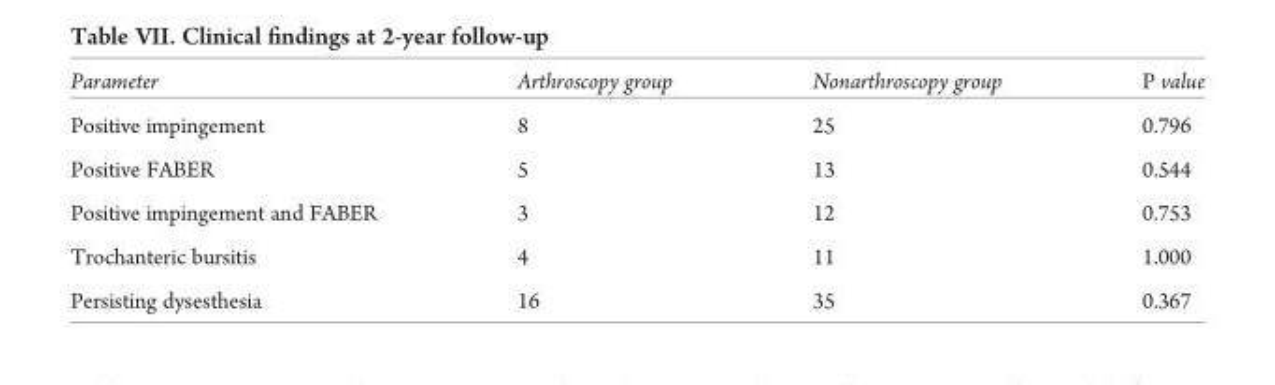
<table><thead><tr><td>Parameter</td><td>Arthroscopy group</td><td>Nonarthroscopy group</td><td>P value</td></tr></thead><tbody><tr><td>Positive impingement</td><td>8</td><td>25</td><td>0.796</td></tr><tr><td>Positive FABER</td><td>5</td><td>13</td><td>0.544</td></tr><tr><td>Positive impingement and FABER</td><td>3</td><td>12</td><td>0.753</td></tr><tr><td>Trochanteric bursitis</td><td>4</td><td>11</td><td>1.000</td></tr><tr><td>Persisting dysesthesia</td><td>16</td><td>35</td><td>0.367</td></tr></tbody></table>